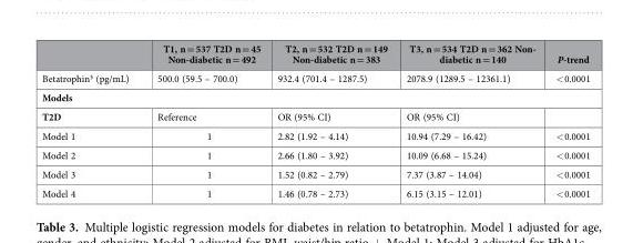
<table><thead><tr><td></td><td>T1, n = 537 T2D n = 45 Non-diabetic n = 492</td><td>T2, n = 532 T2D n = 149 Non-diabetic n = 383</td><td>T3, n = 534 T2D n = 362 Non- diabetic n = 140</td><td>P-trend</td></tr></thead><tbody><tr><td>Betatrophin§ (pg/mL)</td><td>500.0 (59.5 – 700.0)</td><td>932.4 (701.4 – 1287.5)</td><td>2078.9 (1289.5 – 12361.1)</td><td>&lt; 0.0001</td></tr><tr><td colspan="5">Models</td></tr><tr><td>T2D</td><td>Reference</td><td>OR (95% CI)</td><td>OR (95% CI)</td><td></td></tr><tr><td>Model 1</td><td>1</td><td>2.82 (1.92 – 4.14)</td><td>10.94 (7.29 – 16.42)</td><td>&lt; 0.0001</td></tr><tr><td>Model 2</td><td>1</td><td>2.66 (1.80 – 3.92)</td><td>10.09 (6.68 – 15.24)</td><td>&lt; 0.0001</td></tr><tr><td>Model 3</td><td>1</td><td>1.52 (0.82 – 2.79)</td><td>7.37 (3.87 – 14.04)</td><td>&lt; 0.0001</td></tr><tr><td>Model 4</td><td>1</td><td>1.46 (0.78 – 2.73)</td><td>6.15 (3.15 – 12.01)</td><td>&lt; 0.0001</td></tr></tbody></table>